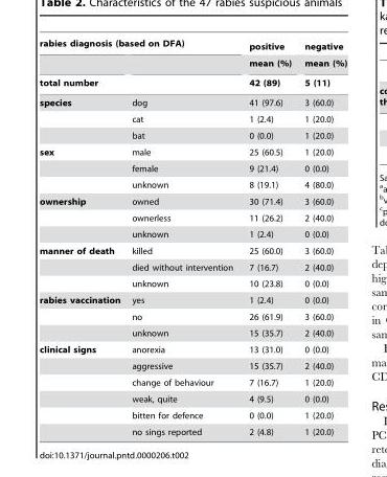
<table><thead><tr><td colspan="2">rabies diagnosis (based on DFA)</td><td rowspan="3">positive mean (%) 42 (89)</td><td rowspan="3">negative mean (%) 5 (11)</td></tr><tr><td rowspan="2">total number</td><td rowspan="2"></td></tr><tr></tr></thead><tbody><tr><td rowspan="3">species</td><td>dog</td><td>41 (97.6)</td><td>3 (60.0)</td></tr><tr><td>cat</td><td>1 (2.4)</td><td>1 (20.0)</td></tr><tr><td>bat</td><td>0 (0.0)</td><td>1 (20.0)</td></tr><tr><td rowspan="3">sex</td><td>male</td><td>25 (60.5)</td><td>1 (20.0)</td></tr><tr><td>female</td><td>9 (21.4)</td><td>0 (0.0)</td></tr><tr><td>unknown</td><td>8 (19.1)</td><td>4 (80.0)</td></tr><tr><td rowspan="3">ownership</td><td>owned</td><td>30 (71.4)</td><td>3 (60.0)</td></tr><tr><td>ownerless</td><td>11 (26.2)</td><td>2 (40.0)</td></tr><tr><td>unknown</td><td>1 (2.4)</td><td>0 (0.0)</td></tr><tr><td rowspan="3">manner of death</td><td>killed</td><td>25 (60.0)</td><td>3 (60.0)</td></tr><tr><td>died without intervention</td><td>7 (16.7)</td><td>2 (40.0)</td></tr><tr><td>unknown</td><td>10 (23.8)</td><td>0 (0.0)</td></tr><tr><td rowspan="3">rabies vaccination</td><td>yes</td><td>1 (2.4)</td><td>0 (0.0)</td></tr><tr><td>no</td><td>26 (61.9)</td><td>3 (60.0)</td></tr><tr><td>unknown</td><td>15 (35.7)</td><td>2 (40.0)</td></tr><tr><td rowspan="6">clinical signs</td><td>anorexia</td><td>13 (31.0)</td><td>0 (0.0)</td></tr><tr><td>aggressive</td><td>15 (35.7)</td><td>2 (40.0)</td></tr><tr><td>change of behaviour</td><td>7 (16.7)</td><td>1 (20.0)</td></tr><tr><td>weak, quite</td><td>4 (9.5)</td><td>0 (0.0)</td></tr><tr><td>bitten for defence</td><td>0 (0.0)</td><td>1 (20.0)</td></tr><tr><td>no sings reported</td><td>2 (4.8)</td><td>1 (20.0)</td></tr></tbody></table>